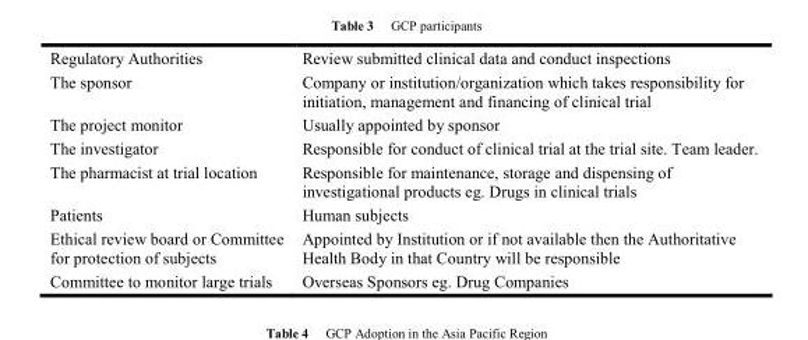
<table><tbody><tr><td>Regulatory Authorities</td><td>Review submitted clinical data and conduct inspections</td></tr><tr><td>The sponsor</td><td>Company or institution/organization which takes responsibility for initiation, management and financing of clinical trial</td></tr><tr><td>The project monitor</td><td>Usually appointed by sponsor</td></tr><tr><td>The investigator</td><td>Responsible for conduct of clinical trial at the trial site. Team leader.</td></tr><tr><td>The pharmacist at trial location</td><td>Responsible for maintenance, storage and dispensing of investigational products eg. Drugs in clinical trials</td></tr><tr><td>Patients</td><td>Human subjects</td></tr><tr><td>Ethical review board or Committee for protection of subjects</td><td>Appointed by Institution or if not available then the Authoritative Health Body in that Country will be responsible</td></tr><tr><td>Committee to monitor large trials</td><td>Overseas Sponsors eg. Drug Companies</td></tr></tbody></table>